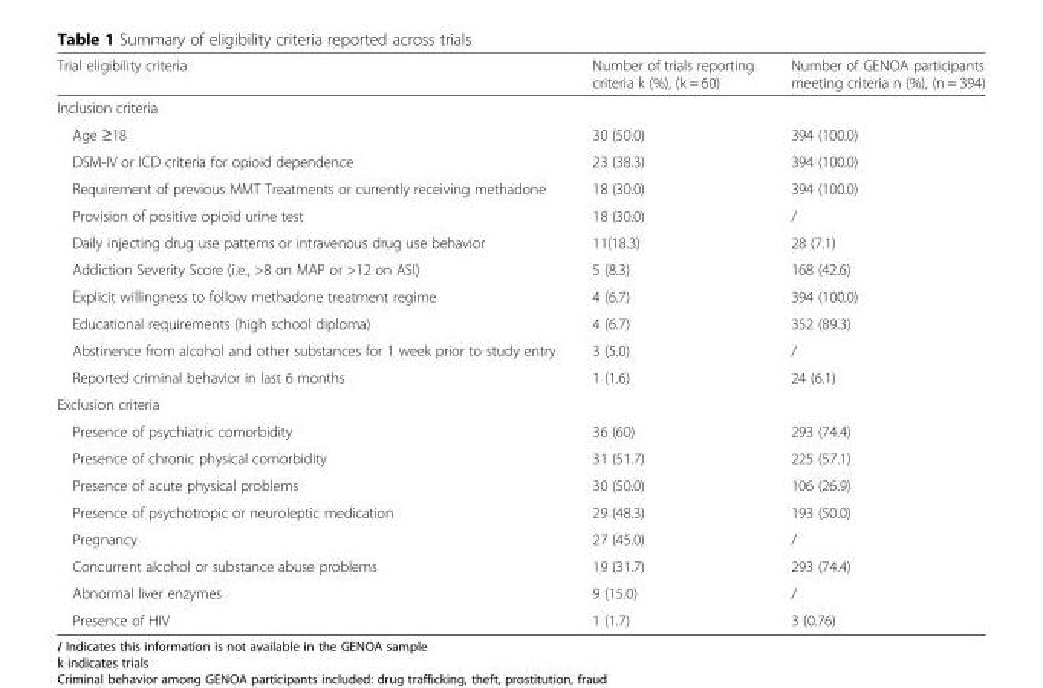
<table><thead><tr><td>Trial eligibility criteria</td><td>Number of trials reporting criteria k (%), (k = 60)</td><td>Number of GENOA participants meeting criteria n (%), (n = 394)</td></tr></thead><tbody><tr><td colspan="3">Inclusion criteria</td></tr><tr><td>Age ≥18</td><td>30 (50.0)</td><td>394 (100.0)</td></tr><tr><td>DSM-IV or ICD criteria for opioid dependence</td><td>23 (38.3)</td><td>394 (100.0)</td></tr><tr><td>Requirement of previous MMT Treatments or currently receiving methadone</td><td>18 (30.0)</td><td>394 (100.0)</td></tr><tr><td>Provision of positive opioid urine test</td><td>18 (30.0)</td><td>/</td></tr><tr><td>Daily injecting drug use patterns or intravenous drug use behavior</td><td>11(18.3)</td><td>28 (7.1)</td></tr><tr><td>Addiction Severity Score (i.e., &gt;8 on MAP or &gt;12 on ASI)</td><td>5 (8.3)</td><td>168 (42.6)</td></tr><tr><td>Explicit willingness to follow methadone treatment regime</td><td>4 (6.7)</td><td>394 (100.0)</td></tr><tr><td>Educational requirements (high school diploma)</td><td>4 (6.7)</td><td>352 (89.3)</td></tr><tr><td>Abstinence from alcohol and other substances for 1 week prior to study entry</td><td>3 (5.0)</td><td>/</td></tr><tr><td>Reported criminal behavior in last 6 months</td><td>1 (1.6)</td><td>24 (6.1)</td></tr><tr><td colspan="3">Exclusion criteria</td></tr><tr><td>Presence of psychiatric comorbidity</td><td>36 (60)</td><td>293 (74.4)</td></tr><tr><td>Presence of chronic physical comorbidity</td><td>31 (51.7)</td><td>225 (57.1)</td></tr><tr><td>Presence of acute physical problems</td><td>30 (50.0)</td><td>106 (26.9)</td></tr><tr><td>Presence of psychotropic or neuroleptic medication</td><td>29 (48.3)</td><td>193 (50.0)</td></tr><tr><td>Pregnancy</td><td>27 (45.0)</td><td>/</td></tr><tr><td>Concurrent alcohol or substance abuse problems</td><td>19 (31.7)</td><td>293 (74.4)</td></tr><tr><td>Abnormal liver enzymes</td><td>9 (15.0)</td><td>/</td></tr><tr><td>Presence of HIV</td><td>1 (1.7)</td><td>3 (0.76)</td></tr></tbody></table>